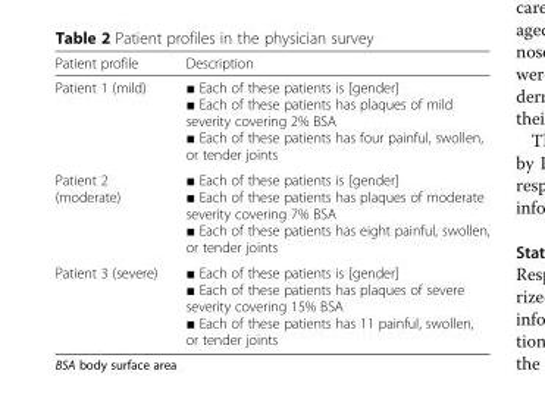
<table><thead><tr><td>Patient profile</td><td>Description</td></tr></thead><tbody><tr><td>Patient 1 (mild)</td><td>■ Each of these patients is [gender] ■ Each of these patients has plaques of mild severity covering 2% BSA ■ Each of these patients has four painful, swollen, or tender joints</td></tr><tr><td>Patient 2 (moderate)</td><td>■ Each of these patients is [gender] ■ Each of these patients has plaques of moderate severity covering 7% BSA ■ Each of these patients has eight painful, swollen, or tender joints</td></tr><tr><td>Patient 3 (severe)</td><td>■ Each of these patients is [gender] ■ Each of these patients has plaques of severe severity covering 15% BSA ■ Each of these patients has 11 painful, swollen, or tender joints</td></tr></tbody></table>